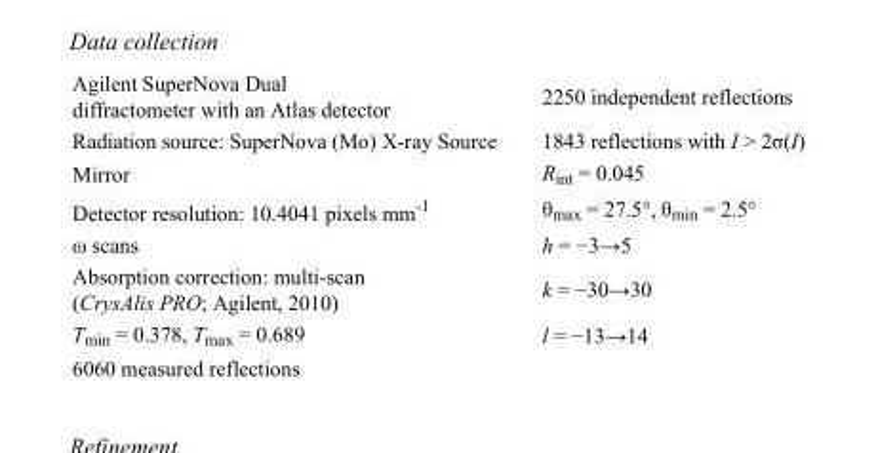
<table><tbody><tr><td>Agilent SuperNova Dual diffractometer with an Atlas detector</td><td>2250 independent reflections</td></tr><tr><td>Radiation source: SuperNova (Mo) X-ray Source</td><td>1843 reflections with I &gt; 2σ(I)</td></tr><tr><td>Mirror</td><td>R<sub>int</sub> = 0.045</td></tr><tr><td>Detector resolution: 10.4041 pixels mm<sup>-1</sup></td><td>θ<sub>max</sub> = 27.5°, θ<sub>min</sub> = 2.5°</td></tr><tr><td>ω scans</td><td>h = −3→5</td></tr><tr><td>Absorption correction: multi-scan (CrysAlis PRO; Agilent, 2010)</td><td>k = −30→30</td></tr><tr><td>T<sub>min</sub> = 0.378, T<sub>max</sub> = 0.689</td><td>l = −13→14</td></tr><tr><td>6060 measured reflections</td><td></td></tr></tbody></table>